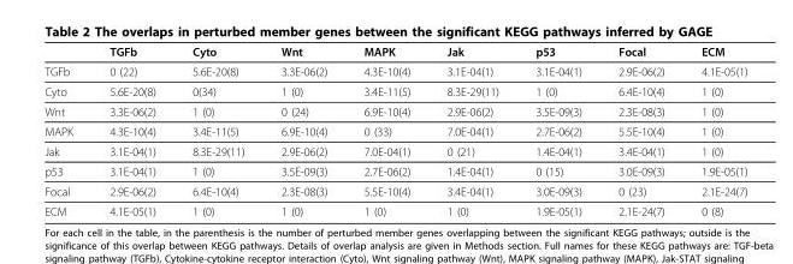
<table><thead><tr><td></td><td>TGFb</td><td>Cyto</td><td>Wnt</td><td>MAPK</td><td>Jak</td><td>p53</td><td>Focal</td><td>ECM</td></tr></thead><tbody><tr><td>TGFb</td><td>0 (22)</td><td>5.6E-20(8)</td><td>3.3E-06(2)</td><td>4.3E-10(4)</td><td>3.1E-04(1)</td><td>3.1E-04(1)</td><td>2.9E-06(2)</td><td>4.1E-05(1)</td></tr><tr><td>Cyto</td><td>5.6E-20(8)</td><td>0(34)</td><td>1 (0)</td><td>3.4E-11(5)</td><td>8.3E-29(11)</td><td>1 (0)</td><td>6.4E-10(4)</td><td>1 (0)</td></tr><tr><td>Wnt</td><td>3.3E-06(2)</td><td>1 (0)</td><td>0 (24)</td><td>6.9E-10(4)</td><td>2.9E-06(2)</td><td>3.5E-09(3)</td><td>2.3E-08(3)</td><td>1 (0)</td></tr><tr><td>MAPK</td><td>4.3E-10(4)</td><td>3.4E-11(5)</td><td>6.9E-10(4)</td><td>0 (33)</td><td>7.0E-04(1)</td><td>2.7E-06(2)</td><td>5.5E-10(4)</td><td>1 (0)</td></tr><tr><td>Jak</td><td>3.1E-04(1)</td><td>8.3E-29(11)</td><td>2.9E-06(2)</td><td>7.0E-04(1)</td><td>0 (21)</td><td>1.4E-04(1)</td><td>3.4E-04(1)</td><td>1 (0)</td></tr><tr><td>p53</td><td>3.1E-04(1)</td><td>1 (0)</td><td>3.5E-09(3)</td><td>2.7E-06(2)</td><td>1.4E-04(1)</td><td>0 (15)</td><td>3.0E-09(3)</td><td>1.9E-05(1)</td></tr><tr><td>Focal</td><td>2.9E-06(2)</td><td>6.4E-10(4)</td><td>2.3E-08(3)</td><td>5.5E-10(4)</td><td>3.4E-04(1)</td><td>3.0E-09(3)</td><td>0 (23)</td><td>2.1E-24(7)</td></tr><tr><td>ECM</td><td>4.1E-05(1)</td><td>1 (0)</td><td>1 (0)</td><td>1 (0)</td><td>1 (0)</td><td>1.9E-05(1)</td><td>2.1E-24(7)</td><td>0 (8)</td></tr></tbody></table>